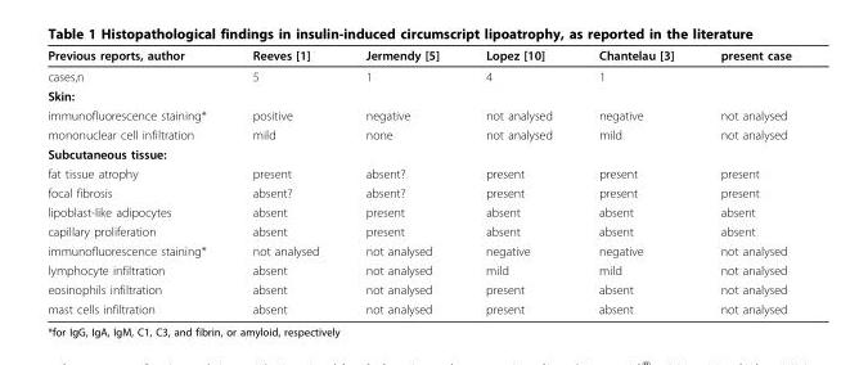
<table><thead><tr><td>Previous reports, author</td><td>Reeves [1]</td><td>Jermendy [5]</td><td>Lopez [10]</td><td>Chantelau [3]</td><td>present case</td></tr></thead><tbody><tr><td>cases,n</td><td>5</td><td>1</td><td>4</td><td>1</td><td></td></tr><tr><td colspan="6">Skin:</td></tr><tr><td>immunofluorescence staining*</td><td>positive</td><td>negative</td><td>not analysed</td><td>negative</td><td>not analysed</td></tr><tr><td>mononuclear cell infiltration</td><td>mild</td><td>none</td><td>not analysed</td><td>mild</td><td>not analysed</td></tr><tr><td colspan="6">Subcutaneous tissue:</td></tr><tr><td>fat tissue atrophy</td><td>present</td><td>absent?</td><td>present</td><td>present</td><td>present</td></tr><tr><td>focal fibrosis</td><td>absent?</td><td>absent?</td><td>present</td><td>present</td><td>present</td></tr><tr><td>lipoblast-like adipocytes</td><td>absent</td><td>present</td><td>absent</td><td>absent</td><td>absent</td></tr><tr><td>capillary proliferation</td><td>absent</td><td>present</td><td>absent</td><td>absent</td><td>absent</td></tr><tr><td>immunofluorescence staining*</td><td>not analysed</td><td>not analysed</td><td>negative</td><td>negative</td><td>not analysed</td></tr><tr><td>lymphocyte infiltration</td><td>absent</td><td>not analysed</td><td>mild</td><td>mild</td><td>not analysed</td></tr><tr><td>eosinophils infiltration</td><td>absent</td><td>not analysed</td><td>present</td><td>absent</td><td>not analysed</td></tr><tr><td>mast cells infiltration</td><td>absent</td><td>not analysed</td><td>present</td><td>absent</td><td>not analysed</td></tr></tbody></table>